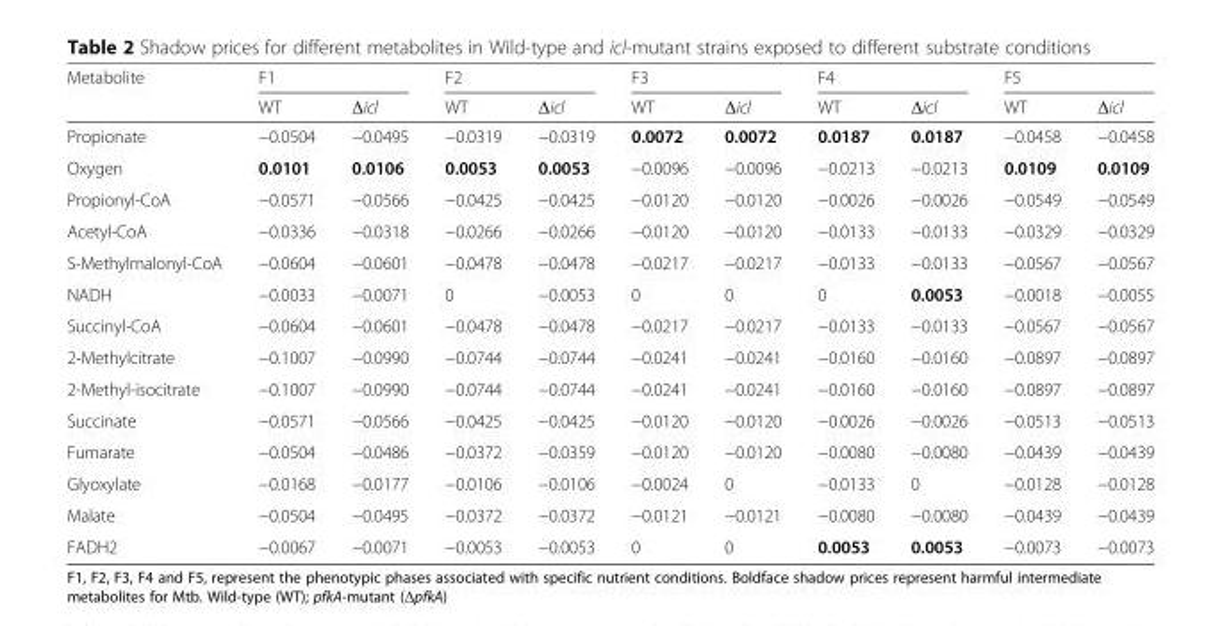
<table><thead><tr><td rowspan="2">Metabolite</td><td colspan="2">F1</td><td colspan="2">F2</td><td colspan="2">F3</td><td colspan="2">F4</td><td colspan="2">F5</td></tr><tr><td>WT</td><td>Δicl</td><td>WT</td><td>Δicl</td><td>WT</td><td>Δicl</td><td>WT</td><td>Δicl</td><td>WT</td><td>Δicl</td></tr></thead><tbody><tr><td>Propionate</td><td>−0.0504</td><td>−0.0495</td><td>−0.0319</td><td>−0.0319</td><td>0.0072</td><td>0.0072</td><td>0.0187</td><td>0.0187</td><td>−0.0458</td><td>−0.0458</td></tr><tr><td>Oxygen</td><td>0.0101</td><td>0.0106</td><td>0.0053</td><td>0.0053</td><td>−0.0096</td><td>−0.0096</td><td>−0.0213</td><td>−0.0213</td><td>0.0109</td><td>0.0109</td></tr><tr><td>Propionyl-CoA</td><td>−0.0571</td><td>−0.0566</td><td>−0.0425</td><td>−0.0425</td><td>−0.0120</td><td>−0.0120</td><td>−0.0026</td><td>−0.0026</td><td>−0.0549</td><td>−0.0549</td></tr><tr><td>Acetyl-CoA</td><td>−0.0336</td><td>−0.0318</td><td>−0.0266</td><td>−0.0266</td><td>−0.0120</td><td>−0.0120</td><td>−0.0133</td><td>−0.0133</td><td>−0.0329</td><td>−0.0329</td></tr><tr><td>S-Methylmalonyl-CoA</td><td>−0.0604</td><td>−0.0601</td><td>−0.0478</td><td>−0.0478</td><td>−0.0217</td><td>−0.0217</td><td>−0.0133</td><td>−0.0133</td><td>−0.0567</td><td>−0.0567</td></tr><tr><td>NADH</td><td>−0.0033</td><td>−0.0071</td><td>0</td><td>−0.0053</td><td>0</td><td>0</td><td>0</td><td>0.0053</td><td>−0.0018</td><td>−0.0055</td></tr><tr><td>Succinyl-CoA</td><td>−0.0604</td><td>−0.0601</td><td>−0.0478</td><td>−0.0478</td><td>−0.0217</td><td>−0.0217</td><td>−0.0133</td><td>−0.0133</td><td>−0.0567</td><td>−0.0567</td></tr><tr><td>2-Methylcitrate</td><td>−0.1007</td><td>−0.0990</td><td>−0.0744</td><td>−0.0744</td><td>−0.0241</td><td>−0.0241</td><td>−0.0160</td><td>−0.0160</td><td>−0.0897</td><td>−0.0897</td></tr><tr><td>2-Methyl-isocitrate</td><td>−0.1007</td><td>−0.0990</td><td>−0.0744</td><td>−0.0744</td><td>−0.0241</td><td>−0.0241</td><td>−0.0160</td><td>−0.0160</td><td>−0.0897</td><td>−0.0897</td></tr><tr><td>Succinate</td><td>−0.0571</td><td>−0.0566</td><td>−0.0425</td><td>−0.0425</td><td>−0.0120</td><td>−0.0120</td><td>−0.0026</td><td>−0.0026</td><td>−0.0513</td><td>−0.0513</td></tr><tr><td>Fumarate</td><td>−0.0504</td><td>−0.0486</td><td>−0.0372</td><td>−0.0359</td><td>−0.0120</td><td>−0.0120</td><td>−0.0080</td><td>−0.0080</td><td>−0.0439</td><td>−0.0439</td></tr><tr><td>Glyoxylate</td><td>−0.0168</td><td>−0.0177</td><td>−0.0106</td><td>−0.0106</td><td>−0.0024</td><td>0</td><td>−0.0133</td><td>0</td><td>−0.0128</td><td>−0.0128</td></tr><tr><td>Malate</td><td>−0.0504</td><td>−0.0495</td><td>−0.0372</td><td>−0.0372</td><td>−0.0121</td><td>−0.0121</td><td>−0.0080</td><td>−0.0080</td><td>−0.0439</td><td>−0.0439</td></tr><tr><td>FADH2</td><td>−0.0067</td><td>−0.0071</td><td>−0.0053</td><td>−0.0053</td><td>0</td><td>0</td><td>0.0053</td><td>0.0053</td><td>−0.0073</td><td>−0.0073</td></tr></tbody></table>